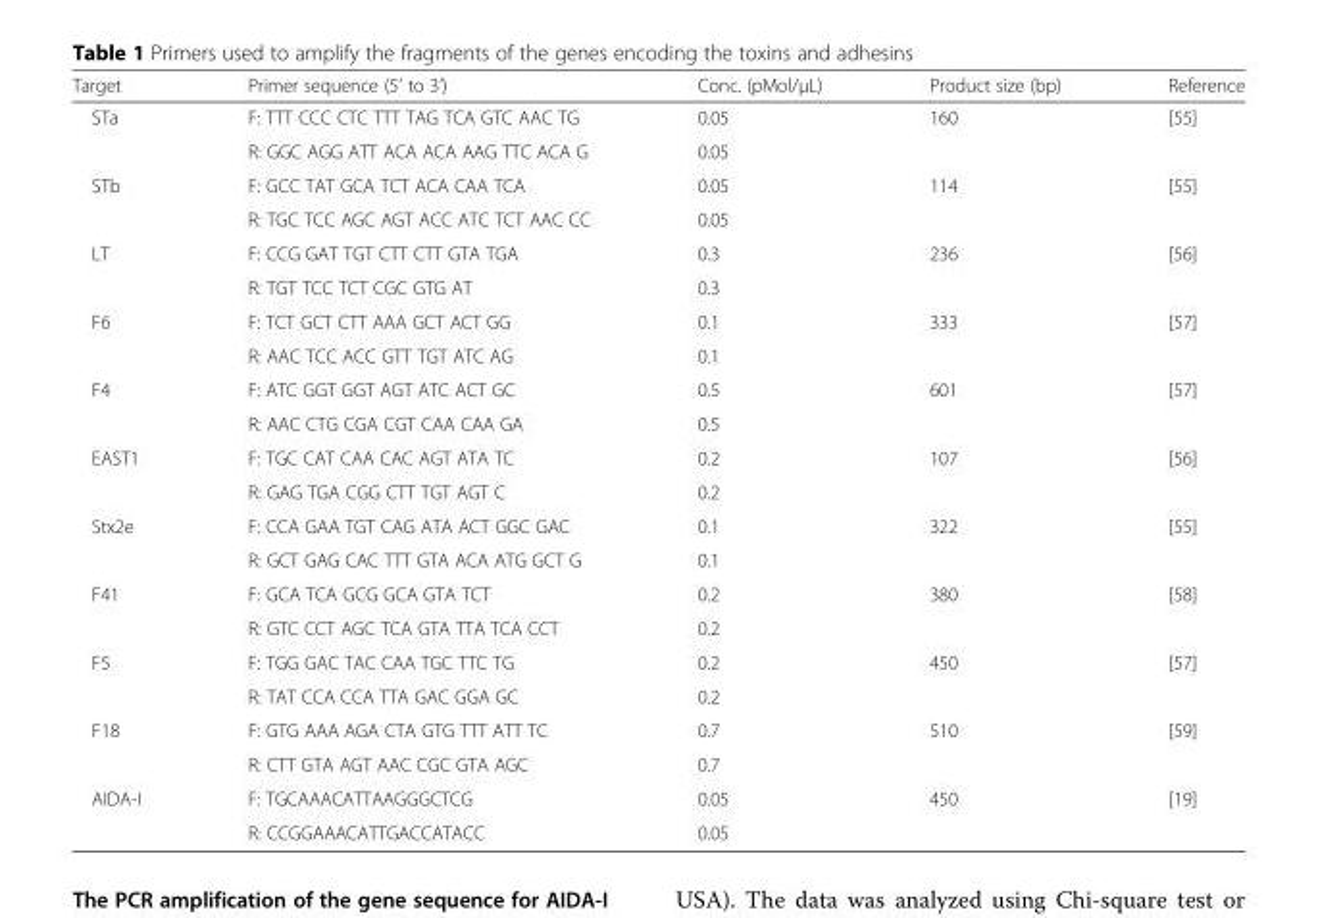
<table><thead><tr><td>Target</td><td>Primer sequence (5’ to 3’)</td><td>Conc. (pMol/μL)</td><td>Product size (bp)</td><td>Reference</td></tr></thead><tbody><tr><td rowspan="2">STa</td><td>F: TTT CCC CTC TTT TAG TCA GTC AAC TG</td><td>0.05</td><td>160</td><td>[55]</td></tr><tr><td>R: GGC AGG ATT ACA ACA AAG TTC ACA G</td><td>0.05</td><td></td><td></td></tr><tr><td rowspan="2">STb</td><td>F: GCC TAT GCA TCT ACA CAA TCA</td><td>0.05</td><td>114</td><td>[55]</td></tr><tr><td>R: TGC TCC AGC AGT ACC ATC TCT AAC CC</td><td>0.05</td><td></td><td></td></tr><tr><td rowspan="2">LT</td><td>F: CCG GAT TGT CTT CTT GTA TGA</td><td>0.3</td><td>236</td><td>[56]</td></tr><tr><td>R: TGT TCC TCT CGC GTG AT</td><td>0.3</td><td></td><td></td></tr><tr><td rowspan="2">F6</td><td>F: TCT GCT CTT AAA GCT ACT GG</td><td>0.1</td><td>333</td><td>[57]</td></tr><tr><td>R: AAC TCC ACC GTT TGT ATC AG</td><td>0.1</td><td></td><td></td></tr><tr><td rowspan="2">F4</td><td>F: ATC GGT GGT AGT ATC ACT GC</td><td>0.5</td><td>601</td><td>[57]</td></tr><tr><td>R: AAC CTG CGA CGT CAA CAA GA</td><td>0.5</td><td></td><td></td></tr><tr><td rowspan="2">EAST1</td><td>F: TGC CAT CAA CAC AGT ATA TC</td><td>0.2</td><td>107</td><td>[56]</td></tr><tr><td>R: GAG TGA CGG CTT TGT AGT C</td><td>0.2</td><td></td><td></td></tr><tr><td rowspan="2">Stx2e</td><td>F: CCA GAA TGT CAG ATA ACT GGC GAC</td><td>0.1</td><td>322</td><td>[55]</td></tr><tr><td>R: GCT GAG CAC TTT GTA ACA ATG GCT G</td><td>0.1</td><td></td><td></td></tr><tr><td rowspan="2">F41</td><td>F: GCA TCA GCG GCA GTA TCT</td><td>0.2</td><td>380</td><td>[58]</td></tr><tr><td>R: GTC CCT AGC TCA GTA TTA TCA CCT</td><td>0.2</td><td></td><td></td></tr><tr><td rowspan="2">F5</td><td>F: TGG GAC TAC CAA TGC TTC TG</td><td>0.2</td><td>450</td><td>[57]</td></tr><tr><td>R: TAT CCA CCA TTA GAC GGA GC</td><td>0.2</td><td></td><td></td></tr><tr><td rowspan="2">F18</td><td>F: GTG AAA AGA CTA GTG TTT ATT TC</td><td>0.7</td><td>510</td><td>[59]</td></tr><tr><td>R: CTT GTA AGT AAC CGC GTA AGC</td><td>0.7</td><td></td><td></td></tr><tr><td rowspan="2">AIDA-I</td><td>F: TGCAAACATTAAGGGCTCG</td><td>0.05</td><td>450</td><td>[19]</td></tr><tr><td>R: CCGGAAACATTGACCATACC</td><td>0.05</td><td></td><td></td></tr></tbody></table>